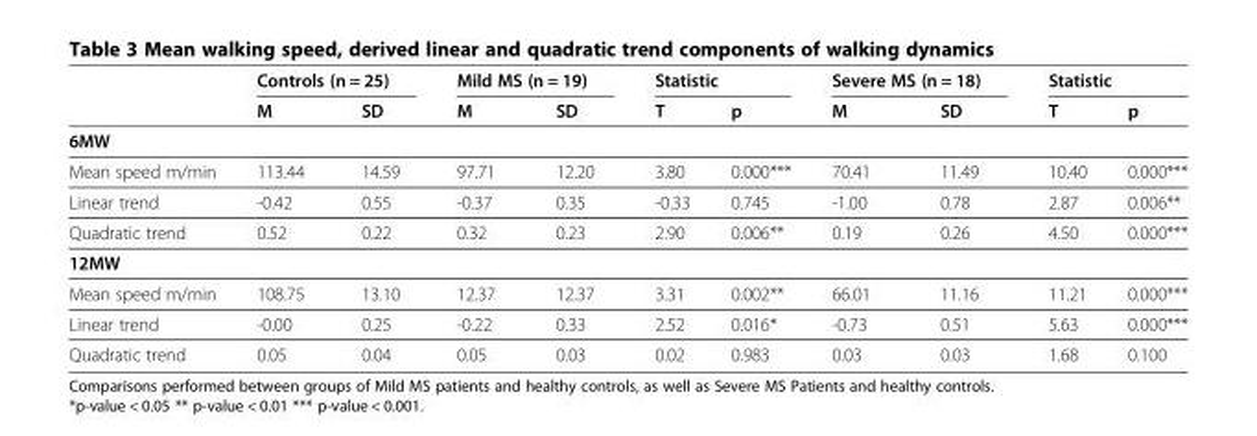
<table><thead><tr><td rowspan="2"></td><td colspan="2">Controls (n = 25)</td><td colspan="2">Mild MS (n = 19)</td><td colspan="2">Statistic</td><td colspan="2">Severe MS (n = 18)</td><td colspan="2">Statistic</td></tr><tr><td>M</td><td>SD</td><td>M</td><td>SD</td><td>T</td><td>p</td><td>M</td><td>SD</td><td>T</td><td>p</td></tr></thead><tbody><tr><td colspan="11">6MW</td></tr><tr><td>Mean speed m/min</td><td>113.44</td><td>14.59</td><td>97.71</td><td>12.20</td><td>3.80</td><td>0.000***</td><td>70.41</td><td>11.49</td><td>10.40</td><td>0.000***</td></tr><tr><td>Linear trend</td><td>-0.42</td><td>0.55</td><td>-0.37</td><td>0.35</td><td>-0.33</td><td>0.745</td><td>-1.00</td><td>0.78</td><td>2.87</td><td>0.006**</td></tr><tr><td>Quadratic trend</td><td>0.52</td><td>0.22</td><td>0.32</td><td>0.23</td><td>2.90</td><td>0.006**</td><td>0.19</td><td>0.26</td><td>4.50</td><td>0.000***</td></tr><tr><td colspan="11">12MW</td></tr><tr><td>Mean speed m/min</td><td>108.75</td><td>13.10</td><td>12.37</td><td>12.37</td><td>3.31</td><td>0.002**</td><td>66.01</td><td>11.16</td><td>11.21</td><td>0.000***</td></tr><tr><td>Linear trend</td><td>-0.00</td><td>0.25</td><td>-0.22</td><td>0.33</td><td>2.52</td><td>0.016*</td><td>-0.73</td><td>0.51</td><td>5.63</td><td>0.000***</td></tr><tr><td>Quadratic trend</td><td>0.05</td><td>0.04</td><td>0.05</td><td>0.03</td><td>0.02</td><td>0.983</td><td>0.03</td><td>0.03</td><td>1.68</td><td>0.100</td></tr></tbody></table>